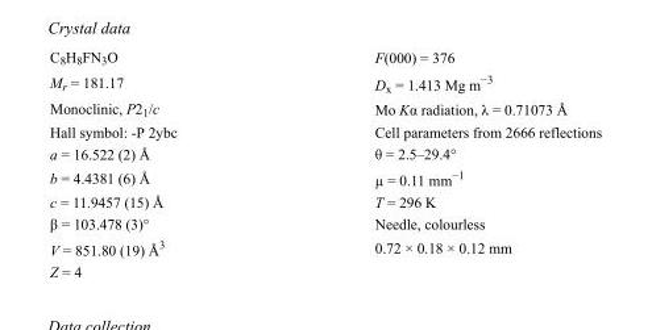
<table><tbody><tr><td>C<sub>8</sub>H<sub>8</sub>FN<sub>3</sub>O</td><td>F(000) = 376</td></tr><tr><td>M<sub>r</sub> = 181.17</td><td>D<sub>x</sub> = 1.413 Mg m<sup>−3</sup></td></tr><tr><td>Monoclinic, P2<sub>1</sub>/c</td><td>Mo Kα radiation, λ = 0.71073 Å</td></tr><tr><td>Hall symbol: -P 2ybc</td><td>Cell parameters from 2666 reflections</td></tr><tr><td>a = 16.522 (2) Å</td><td>θ = 2.5–29.4°</td></tr><tr><td>b = 4.4381 (6) Å</td><td>µ = 0.11 mm<sup>−1</sup></td></tr><tr><td>c = 11.9457 (15) Å</td><td>T = 296 K</td></tr><tr><td>β = 103.478 (3)°</td><td>Needle, colourless</td></tr><tr><td>V = 851.80 (19) Å<sup>3</sup></td><td>0.72 × 0.18 × 0.12 mm</td></tr><tr><td>Z = 4</td><td></td></tr></tbody></table>